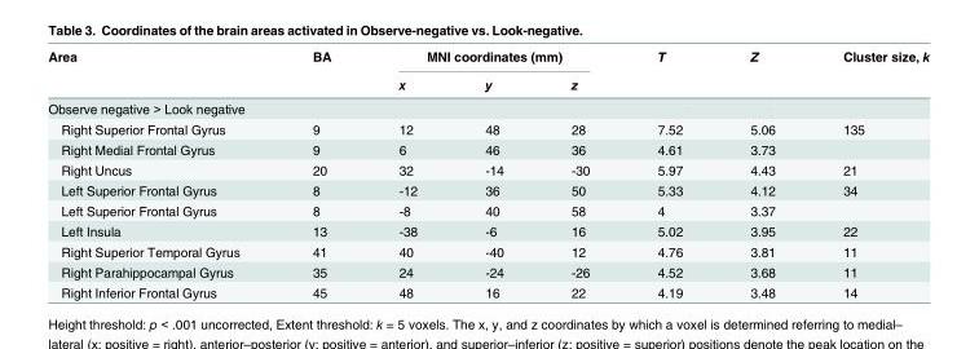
<table><thead><tr><td rowspan="2">Area</td><td rowspan="2">BA</td><td colspan="3">MNI coordinates (mm)</td><td rowspan="2">T</td><td rowspan="2">Z</td><td rowspan="2">Cluster size, k</td></tr><tr><td>x</td><td>y</td><td>z</td></tr></thead><tbody><tr><td colspan="8">Observe negative &gt; Look negative</td></tr><tr><td>Right Superior Frontal Gyrus</td><td>9</td><td>12</td><td>48</td><td>28</td><td>7.52</td><td>5.06</td><td>135</td></tr><tr><td>Right Medial Frontal Gyrus</td><td>9</td><td>6</td><td>46</td><td>36</td><td>4.61</td><td>3.73</td><td></td></tr><tr><td>Right Uncus</td><td>20</td><td>32</td><td>-14</td><td>-30</td><td>5.97</td><td>4.43</td><td>21</td></tr><tr><td>Left Superior Frontal Gyrus</td><td>8</td><td>-12</td><td>36</td><td>50</td><td>5.33</td><td>4.12</td><td>34</td></tr><tr><td>Left Superior Frontal Gyrus</td><td>8</td><td>-8</td><td>40</td><td>58</td><td>4</td><td>3.37</td><td></td></tr><tr><td>Left Insula</td><td>13</td><td>-38</td><td>-6</td><td>16</td><td>5.02</td><td>3.95</td><td>22</td></tr><tr><td>Right Superior Temporal Gyrus</td><td>41</td><td>40</td><td>-40</td><td>12</td><td>4.76</td><td>3.81</td><td>11</td></tr><tr><td>Right Parahippocampal Gyrus</td><td>35</td><td>24</td><td>-24</td><td>-26</td><td>4.52</td><td>3.68</td><td>11</td></tr><tr><td>Right Inferior Frontal Gyrus</td><td>45</td><td>48</td><td>16</td><td>22</td><td>4.19</td><td>3.48</td><td>14</td></tr></tbody></table>